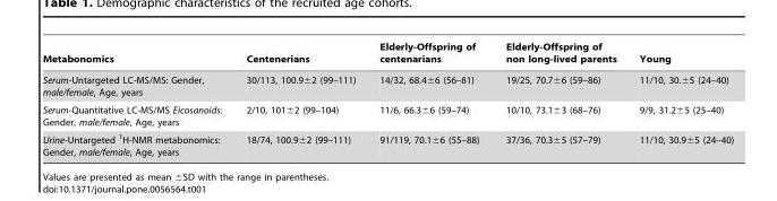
<table><thead><tr><td>Metabonomics</td><td>Centenerians</td><td>Elderly-Offspring of centenarians</td><td>Elderly-Offspring of non long-lived parents</td><td>Young</td></tr></thead><tbody><tr><td>Serum-Untargeted LC-MS/MS: Gender, male/female, Age, years</td><td>30/113, 100.9±2 (99–111)</td><td>14/32, 68.4±6 (56–81)</td><td>19/25, 70.7±6 (59–86)</td><td>11/10, 30.±5 (24–40)</td></tr><tr><td>Serum-Quantitative LC-MS/MS Eicosanoids: Gender, male/female, Age, years</td><td>2/10, 101±2 (99–104)</td><td>11/6, 66.3±6 (59–74)</td><td>10/10, 73.1±3 (68–76)</td><td>9/9, 31.2±5 (25–40)</td></tr><tr><td>Urine-Untargeted <sup>1</sup>H-NMR metabonomics: Gender, male/female, Age, years</td><td>18/74, 100.9±2 (99–111)</td><td>91/119, 70.1±6 (55–88)</td><td>37/36, 70.3±5 (57–79)</td><td>11/10, 30.9±5 (24–40)</td></tr></tbody></table>